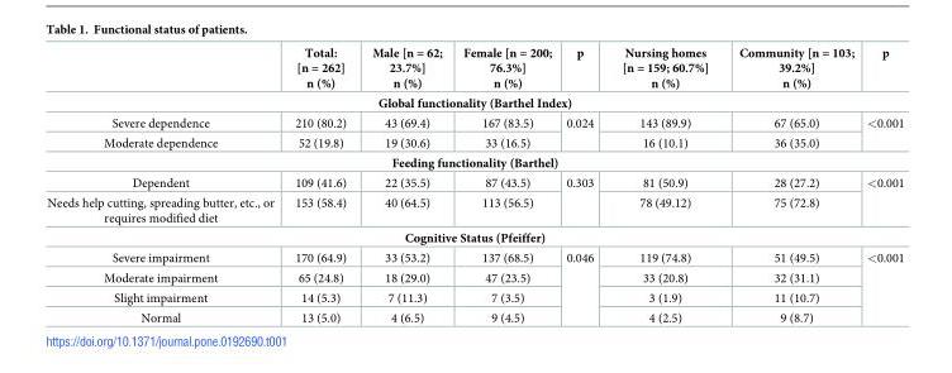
<table><thead><tr><td></td><td>Total: [n = 262] n (%)</td><td>Male [n = 62; 23.7%] n (%)</td><td>Female [n = 200; 76.3%] n (%)</td><td>p</td><td>Nursing homes [n = 159; 60.7%] n (%)</td><td>Community [n = 103; 39.2%] n (%)</td><td>p</td></tr></thead><tbody><tr><td colspan="8">Global functionality (Barthel Index)</td></tr><tr><td>Severe dependence</td><td>210 (80.2)</td><td>43 (69.4)</td><td>167 (83.5)</td><td rowspan="2">0.024</td><td>143 (89.9)</td><td>67 (65.0)</td><td rowspan="2">&lt;0.001</td></tr><tr><td>Moderate dependence</td><td>52 (19.8)</td><td>19 (30.6)</td><td>33 (16.5)</td><td>16 (10.1)</td><td>36 (35.0)</td></tr><tr><td colspan="8">Feeding functionality (Barthel)</td></tr><tr><td>Dependent</td><td>109 (41.6)</td><td>22 (35.5)</td><td>87 (43.5)</td><td rowspan="2">0.303</td><td>81 (50.9)</td><td>28 (27.2)</td><td rowspan="2">&lt;0.001</td></tr><tr><td>Needs help cutting, spreading butter, etc., or requires modified diet</td><td>153 (58.4)</td><td>40 (64.5)</td><td>113 (56.5)</td><td>78 (49.12)</td><td>75 (72.8)</td></tr><tr><td colspan="8">Cognitive Status (Pfeiffer)</td></tr><tr><td>Severe impairment</td><td>170 (64.9)</td><td>33 (53.2)</td><td>137 (68.5)</td><td rowspan="4">0.046</td><td>119 (74.8)</td><td>51 (49.5)</td><td rowspan="4">&lt;0.001</td></tr><tr><td>Moderate impairment</td><td>65 (24.8)</td><td>18 (29.0)</td><td>47 (23.5)</td><td>33 (20.8)</td><td>32 (31.1)</td></tr><tr><td>Slight impairment</td><td>14 (5.3)</td><td>7 (11.3)</td><td>7 (3.5)</td><td>3 (1.9)</td><td>11 (10.7)</td></tr><tr><td>Normal</td><td>13 (5.0)</td><td>4 (6.5)</td><td>9 (4.5)</td><td>4 (2.5)</td><td>9 (8.7)</td></tr></tbody></table>